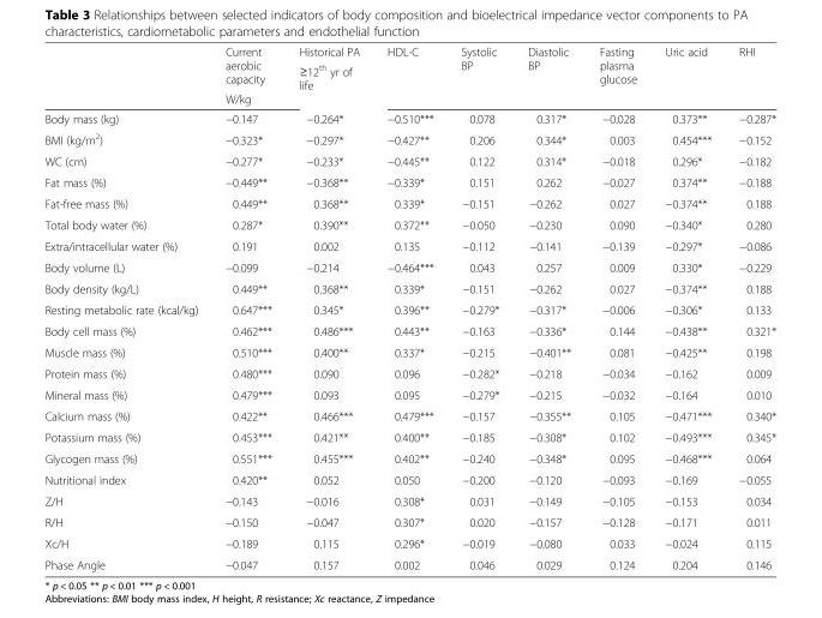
<table><thead><tr><td rowspan="3"></td><td rowspan="3">Current aerobic capacity W/kg</td><td rowspan="3">Historical PA ≥12<sup>th</sup> yr of life</td><td rowspan="3">HDL-C</td><td rowspan="3">Systolic BP</td><td rowspan="3">Diastolic BP</td><td rowspan="3">Fasting plasma glucose</td><td rowspan="3">Uric acid</td><td rowspan="3">RHI</td></tr><tr></tr><tr></tr></thead><tbody><tr><td>Body mass (kg)</td><td>−0.147</td><td>−0.264*</td><td>−0.510***</td><td>0.078</td><td>0.317*</td><td>−0.028</td><td>0.373**</td><td>−0.287*</td></tr><tr><td>BMI (kg/m<sup>2</sup>)</td><td>−0.323*</td><td>−0.297*</td><td>−0.427**</td><td>0.206</td><td>0.344*</td><td>0.003</td><td>0.454***</td><td>−0.152</td></tr><tr><td>WC (cm)</td><td>−0.277*</td><td>−0.233*</td><td>−0.445**</td><td>0.122</td><td>0.314*</td><td>−0.018</td><td>0.296*</td><td>−0.182</td></tr><tr><td>Fat mass (%)</td><td>−0.449**</td><td>−0.368**</td><td>−0.339*</td><td>0.151</td><td>0.262</td><td>−0.027</td><td>0.374**</td><td>−0.188</td></tr><tr><td>Fat-free mass (%)</td><td>0.449**</td><td>0.368**</td><td>0.339*</td><td>−0.151</td><td>−0.262</td><td>0.027</td><td>−0.374**</td><td>0.188</td></tr><tr><td>Total body water (%)</td><td>0.287*</td><td>0.390**</td><td>0.372**</td><td>−0.050</td><td>−0.230</td><td>0.090</td><td>−0.340*</td><td>0.280</td></tr><tr><td>Extra/intracellular water (%)</td><td>0.191</td><td>0.002</td><td>0.135</td><td>−0.112</td><td>−0.141</td><td>−0.139</td><td>−0.297*</td><td>−0.086</td></tr><tr><td>Body volume (L)</td><td>−0.099</td><td>−0.214</td><td>−0.464***</td><td>0.043</td><td>0.257</td><td>0.009</td><td>0.330*</td><td>−0.229</td></tr><tr><td>Body density (kg/L)</td><td>0.449**</td><td>0.368**</td><td>0.339*</td><td>−0.151</td><td>−0.262</td><td>0.027</td><td>−0.374**</td><td>0.188</td></tr><tr><td>Resting metabolic rate (kcal/kg)</td><td>0.647***</td><td>0.345*</td><td>0.396**</td><td>−0.279*</td><td>−0.317*</td><td>−0.006</td><td>−0.306*</td><td>0.133</td></tr><tr><td>Body cell mass (%)</td><td>0.462***</td><td>0.486***</td><td>0.443**</td><td>−0.163</td><td>−0.336*</td><td>0.144</td><td>−0.438**</td><td>0.321*</td></tr><tr><td>Muscle mass (%)</td><td>0.510***</td><td>0.400**</td><td>0.337*</td><td>−0.215</td><td>−0.401**</td><td>0.081</td><td>−0.425**</td><td>0.198</td></tr><tr><td>Protein mass (%)</td><td>0.480***</td><td>0.090</td><td>0.096</td><td>−0.282*</td><td>−0.218</td><td>−0.034</td><td>−0.162</td><td>0.009</td></tr><tr><td>Mineral mass (%)</td><td>0.479***</td><td>0.093</td><td>0.095</td><td>−0.279*</td><td>−0.215</td><td>−0.032</td><td>−0.164</td><td>0.010</td></tr><tr><td>Calcium mass (%)</td><td>0.422**</td><td>0.466***</td><td>0.479***</td><td>−0.157</td><td>−0.355**</td><td>0.105</td><td>−0.471***</td><td>0.340*</td></tr><tr><td>Potassium mass (%)</td><td>0.453***</td><td>0.421**</td><td>0.400**</td><td>−0.185</td><td>−0.308*</td><td>0.102</td><td>−0.493***</td><td>0.345*</td></tr><tr><td>Glycogen mass (%)</td><td>0.551***</td><td>0.455***</td><td>0.402**</td><td>−0.240</td><td>−0.348*</td><td>0.095</td><td>−0.468***</td><td>0.064</td></tr><tr><td>Nutritional index</td><td>0.420**</td><td>0.052</td><td>0.050</td><td>−0.200</td><td>−0.120</td><td>−0.093</td><td>−0.169</td><td>−0.055</td></tr><tr><td>Z/H</td><td>−0.143</td><td>−0.016</td><td>0.308*</td><td>0.031</td><td>−0.149</td><td>−0.105</td><td>−0.153</td><td>0.034</td></tr><tr><td>R/H</td><td>−0.150</td><td>−0.047</td><td>0.307*</td><td>0.020</td><td>−0.157</td><td>−0.128</td><td>−0.171</td><td>0.011</td></tr><tr><td>Xc/H</td><td>−0.189</td><td>0.115</td><td>0.296*</td><td>−0.019</td><td>−0.080</td><td>0.033</td><td>−0.024</td><td>0.115</td></tr><tr><td>Phase Angle</td><td>−0.047</td><td>0.157</td><td>0.002</td><td>0.046</td><td>0.029</td><td>0.124</td><td>0.204</td><td>0.146</td></tr></tbody></table>